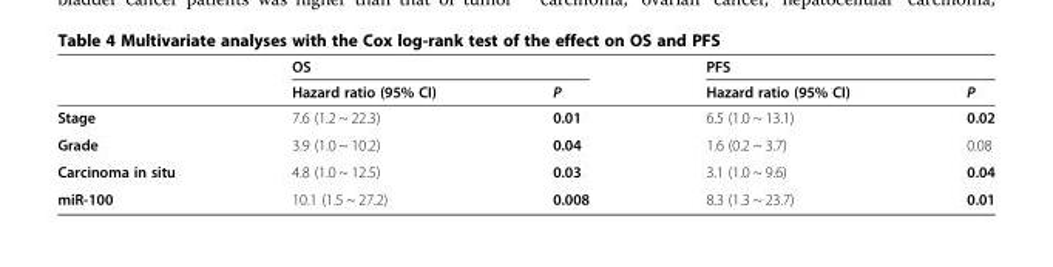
<table><thead><tr><td rowspan="2"></td><td colspan="2">OS</td><td colspan="2">PFS</td></tr><tr><td>Hazard ratio (95% CI)</td><td>P</td><td>Hazard ratio (95% CI)</td><td>P</td></tr></thead><tbody><tr><td>Stage</td><td>7.6 (1.2 ~ 22.3)</td><td>0.01</td><td>6.5 (1.0 ~ 13.1)</td><td>0.02</td></tr><tr><td>Grade</td><td>3.9 (1.0 ~ 10.2)</td><td>0.04</td><td>1.6 (0.2 ~ 3.7)</td><td>0.08</td></tr><tr><td>Carcinoma in situ</td><td>4.8 (1.0 ~ 12.5)</td><td>0.03</td><td>3.1 (1.0 ~ 9.6)</td><td>0.04</td></tr><tr><td>miR-100</td><td>10.1 (1.5 ~ 27.2)</td><td>0.008</td><td>8.3 (1.3 ~ 23.7)</td><td>0.01</td></tr></tbody></table>